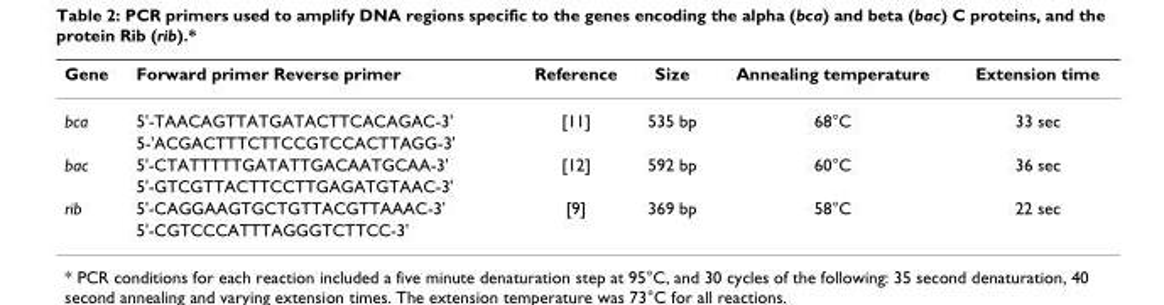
<table><thead><tr><td>Gene</td><td>Forward primer Reverse primer</td><td>Reference</td><td>Size</td><td>Annealing temperature</td><td>Extension time</td></tr></thead><tbody><tr><td rowspan="2">bca</td><td>5&#x27;-TAACAGTTATGATACTTCACAGAC-3&#x27;</td><td>[11]</td><td>535 bp</td><td>68°C</td><td>33 sec</td></tr><tr><td>5-&#x27;ACGACTTTCTTCCGTCCACTTAGG-3&#x27;</td><td></td><td></td><td></td><td></td></tr><tr><td rowspan="2">bac</td><td>5&#x27;-CTATTTTTGATATTGACAATGCAA-3&#x27;</td><td>[12]</td><td>592 bp</td><td>60°C</td><td>36 sec</td></tr><tr><td>5&#x27;-GTCGTTACTTCCTTGAGATGTAAC-3&#x27;</td><td></td><td></td><td></td><td></td></tr><tr><td rowspan="2">rib</td><td>5&#x27;-CAGGAAGTGCTGTTACGTTAAAC-3&#x27;</td><td>[9]</td><td>369 bp</td><td>58°C</td><td>22 sec</td></tr><tr><td>5&#x27;-CGTCCCATTTAGGGTCTTCC-3&#x27;</td><td></td><td></td><td></td><td></td></tr></tbody></table>